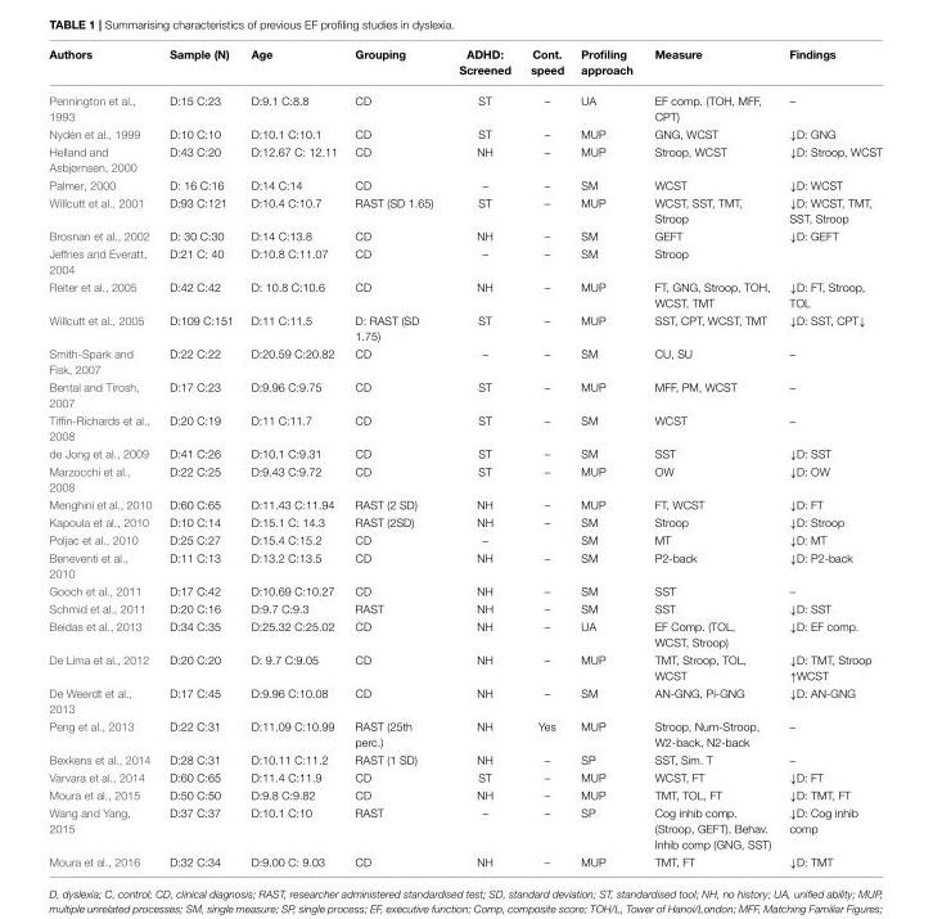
<table><thead><tr><td>Authors</td><td>Sample (N)</td><td>Age</td><td>Grouping</td><td>ADHD: Screened</td><td>Cont. speed</td><td>Profiling approach</td><td>Measure</td><td>Findings</td></tr></thead><tbody><tr><td>Pennington et al., 1993</td><td>D:15 C:23</td><td>D:9.1 C:8.8</td><td>CD</td><td>ST</td><td>–</td><td>UA</td><td>EF comp. (TOH, MFF, CPT)</td><td>–</td></tr><tr><td>Nydén et al., 1999</td><td>D:10 C:10</td><td>D:10.1 C:10.1</td><td>CD</td><td>ST</td><td>–</td><td>MUP</td><td>GNG, WCST</td><td>↓D: GNG</td></tr><tr><td>Helland and Asbjørnsen, 2000</td><td>D:43 C:20</td><td>D:12.67 C: 12.11</td><td>CD</td><td>NH</td><td>–</td><td>MUP</td><td>Stroop, WCST</td><td>↓D: Stroop, WCST</td></tr><tr><td>Palmer, 2000</td><td>D: 16 C:16</td><td>D:14 C:14</td><td>CD</td><td>–</td><td>–</td><td>SM</td><td>WCST</td><td>↓D: WCST</td></tr><tr><td>Willcutt et al., 2001</td><td>D:93 C:121</td><td>D:10.4 C:10.7</td><td>RAST (SD 1.65)</td><td>ST</td><td>–</td><td>MUP</td><td>WCST, SST, TMT, Stroop</td><td>↓D: WCST, TMT, SST, Stroop</td></tr><tr><td>Brosnan et al., 2002</td><td>D: 30 C:30</td><td>D:14 C:13.8</td><td>CD</td><td>NH</td><td>–</td><td>SM</td><td>GEFT</td><td>↓D: GEFT</td></tr><tr><td>Jeffries and Everatt, 2004</td><td>D:21 C: 40</td><td>D:10.8 C:11.07</td><td>CD</td><td>–</td><td>–</td><td>SM</td><td>Stroop</td><td></td></tr><tr><td>Reiter et al., 2005</td><td>D:42 C:42</td><td>D: 10.8 C:10.6</td><td>CD</td><td>NH</td><td>–</td><td>MUP</td><td>FT, GNG, Stroop, TOH, WCST, TMT</td><td>↓D: FT, Stroop, TOL</td></tr><tr><td>Willcutt et al., 2005</td><td>D:109 C:151</td><td>D:11 C:11.5</td><td>D: RAST (SD 1.75)</td><td>ST</td><td>–</td><td>MUP</td><td>SST, CPT, WCST, TMT</td><td>↓D: SST, CPT↓</td></tr><tr><td>Smith-Spark and Fisk, 2007</td><td>D:22 C:22</td><td>D:20.59 C:20.82</td><td>CD</td><td>–</td><td>–</td><td>SM</td><td>CU, SU</td><td>–</td></tr><tr><td>Bental and Tirosh, 2007</td><td>D:17 C:23</td><td>D:9.96 C:9.75</td><td>CD</td><td>ST</td><td>–</td><td>MUP</td><td>MFF, PM, WCST</td><td>–</td></tr><tr><td>Tiffin-Richards et al., 2008</td><td>D:20 C:19</td><td>D:11 C:11.7</td><td>CD</td><td>ST</td><td>–</td><td>SM</td><td>WCST</td><td>–</td></tr><tr><td>de Jong et al., 2009</td><td>D:41 C:26</td><td>D:10.1 C:9.31</td><td>CD</td><td>ST</td><td>–</td><td>SM</td><td>SST</td><td>↓D: SST</td></tr><tr><td>Marzocchi et al., 2008</td><td>D:22 C:25</td><td>D:9.43 C:9.72</td><td>CD</td><td>ST</td><td>–</td><td>MUP</td><td>OW</td><td>↓D: OW</td></tr><tr><td>Menghini et al., 2010</td><td>D:60 C:65</td><td>D:11.43 C:11.94</td><td>RAST (2 SD)</td><td>NH</td><td>–</td><td>MUP</td><td>FT, WCST</td><td>↓D: FT</td></tr><tr><td>Kapoula et al., 2010</td><td>D:10 C:14</td><td>D:15.1 C: 14.3</td><td>RAST (2SD)</td><td>NH</td><td>–</td><td>SM</td><td>Stroop</td><td>↓D: Stroop</td></tr><tr><td>Poljac et al., 2010</td><td>D:25 C:27</td><td>D:15.4 C:15.2</td><td>CD</td><td>–</td><td></td><td>SM</td><td>MT</td><td>↓D: MT</td></tr><tr><td>Beneventi et al., 2010</td><td>D:11 C:13</td><td>D:13.2 C:13.5</td><td>CD</td><td>NH</td><td>–</td><td>SM</td><td>P2-back</td><td>↓D: P2-back</td></tr><tr><td>Gooch et al., 2011</td><td>D:17 C:42</td><td>D:10.69 C:10.27</td><td>CD</td><td>NH</td><td>–</td><td>SM</td><td>SST</td><td>–</td></tr><tr><td>Schmid et al., 2011</td><td>D:20 C:16</td><td>D:9.7 C:9.3</td><td>RAST</td><td>NH</td><td>–</td><td>SM</td><td>SST</td><td>↓D: SST</td></tr><tr><td>Beidas et al., 2013</td><td>D:34 C:35</td><td>D:25.32 C:25.02</td><td>CD</td><td>NH</td><td>–</td><td>UA</td><td>EF Comp. (TOL, WCST, Stroop)</td><td>↓D: EF comp.</td></tr><tr><td>De Lima et al., 2012</td><td>D:20 C:20</td><td>D: 9.7 C:9.05</td><td>CD</td><td>NH</td><td>–</td><td>MUP</td><td>TMT, Stroop, TOL, WCST</td><td>↓D: TMT, Stroop ↑WCST</td></tr><tr><td>De Weerdt et al., 2013</td><td>D:17 C:45</td><td>D:9.96 C:10.08</td><td>CD</td><td>NH</td><td>–</td><td>SM</td><td>AN-GNG, Pi-GNG</td><td>↓D: AN-GNG</td></tr><tr><td>Peng et al., 2013</td><td>D:22 C:31</td><td>D:11.09 C:10.99</td><td>RAST (25th perc.)</td><td>NH</td><td>Yes</td><td>MUP</td><td>Stroop, Num-Stroop, W2-back, N2-back</td><td>–</td></tr><tr><td>Bexkens et al., 2014</td><td>D:28 C:31</td><td>D:10.11 C:11.2</td><td>RAST (1 SD)</td><td>NH</td><td>–</td><td>SP</td><td>SST, Sim. T</td><td>–</td></tr><tr><td>Varvara et al., 2014</td><td>D:60 C:65</td><td>D:11.4 C:11.9</td><td>CD</td><td>ST</td><td>–</td><td>MUP</td><td>WCST, FT</td><td>↓D: FT</td></tr><tr><td>Moura et al., 2015</td><td>D:50 C:50</td><td>D:9.8 C:9.82</td><td>CD</td><td>NH</td><td>–</td><td>MUP</td><td>TMT, TOL, FT</td><td>↓D: TMT, FT</td></tr><tr><td>Wang and Yang, 2015</td><td>D:37 C:37</td><td>D:10.1 C:10</td><td>RAST</td><td>–</td><td>–</td><td>SP</td><td>Cog inhib comp. (Stroop, GEFT), Behav. Inhib comp (GNG, SST)</td><td>↓D: Cog inhib comp</td></tr><tr><td>Moura et al., 2016</td><td>D:32 C:34</td><td>D:9.00 C: 9.03</td><td>CD</td><td>NH</td><td>–</td><td>MUP</td><td>TMT, FT</td><td>↓D: TMT</td></tr></tbody></table>